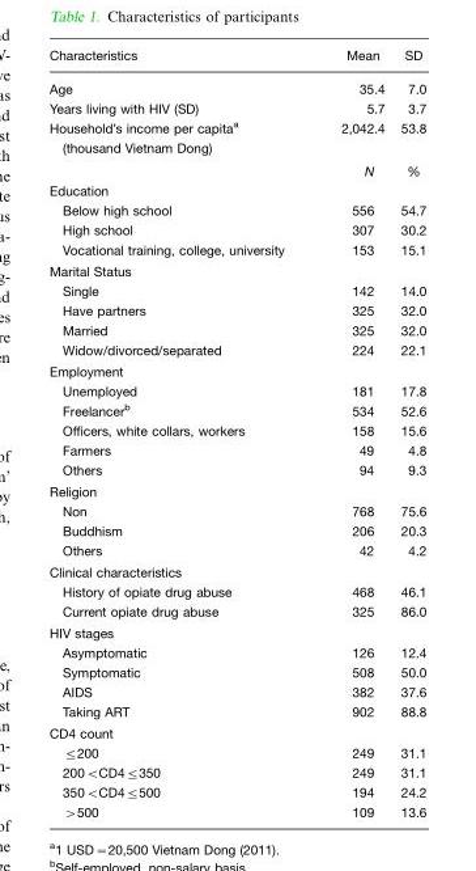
<table><thead><tr><td>Characteristics</td><td>Mean</td><td>SD</td></tr></thead><tbody><tr><td>Age</td><td>35.4</td><td>7.0</td></tr><tr><td>Years living with HIV (SD)</td><td>5.7</td><td>3.7</td></tr><tr><td rowspan="2">Household’s income per capita<sup>a</sup> (thousand Vietnam Dong)</td><td>2,042.4</td><td>53.8</td></tr><tr><td>N</td><td>%</td></tr><tr><td colspan="3">Education</td></tr><tr><td>Below high school</td><td>556</td><td>54.7</td></tr><tr><td>High school</td><td>307</td><td>30.2</td></tr><tr><td>Vocational training, college, university</td><td>153</td><td>15.1</td></tr><tr><td colspan="3">Marital Status</td></tr><tr><td>Single</td><td>142</td><td>14.0</td></tr><tr><td>Have partners</td><td>325</td><td>32.0</td></tr><tr><td>Married</td><td>325</td><td>32.0</td></tr><tr><td>Widow/divorced/separated</td><td>224</td><td>22.1</td></tr><tr><td colspan="3">Employment</td></tr><tr><td>Unemployed</td><td>181</td><td>17.8</td></tr><tr><td>Freelancer<sup>b</sup></td><td>534</td><td>52.6</td></tr><tr><td>Officers, white collars, workers</td><td>158</td><td>15.6</td></tr><tr><td>Farmers</td><td>49</td><td>4.8</td></tr><tr><td>Others</td><td>94</td><td>9.3</td></tr><tr><td colspan="3">Religion</td></tr><tr><td>Non</td><td>768</td><td>75.6</td></tr><tr><td>Buddhism</td><td>206</td><td>20.3</td></tr><tr><td>Others</td><td>42</td><td>4.2</td></tr><tr><td colspan="3">Clinical characteristics</td></tr><tr><td>History of opiate drug abuse</td><td>468</td><td>46.1</td></tr><tr><td>Current opiate drug abuse</td><td>325</td><td>86.0</td></tr><tr><td colspan="3">HIV stages</td></tr><tr><td>Asymptomatic</td><td>126</td><td>12.4</td></tr><tr><td>Symptomatic</td><td>508</td><td>50.0</td></tr><tr><td>AIDS</td><td>382</td><td>37.6</td></tr><tr><td>Taking ART</td><td>902</td><td>88.8</td></tr><tr><td colspan="3">CD4 count</td></tr><tr><td>≤200</td><td>249</td><td>31.1</td></tr><tr><td>200&lt;CD4≤350</td><td>249</td><td>31.1</td></tr><tr><td>350&lt;CD4≤500</td><td>194</td><td>24.2</td></tr><tr><td>&gt;500</td><td>109</td><td>13.6</td></tr></tbody></table>